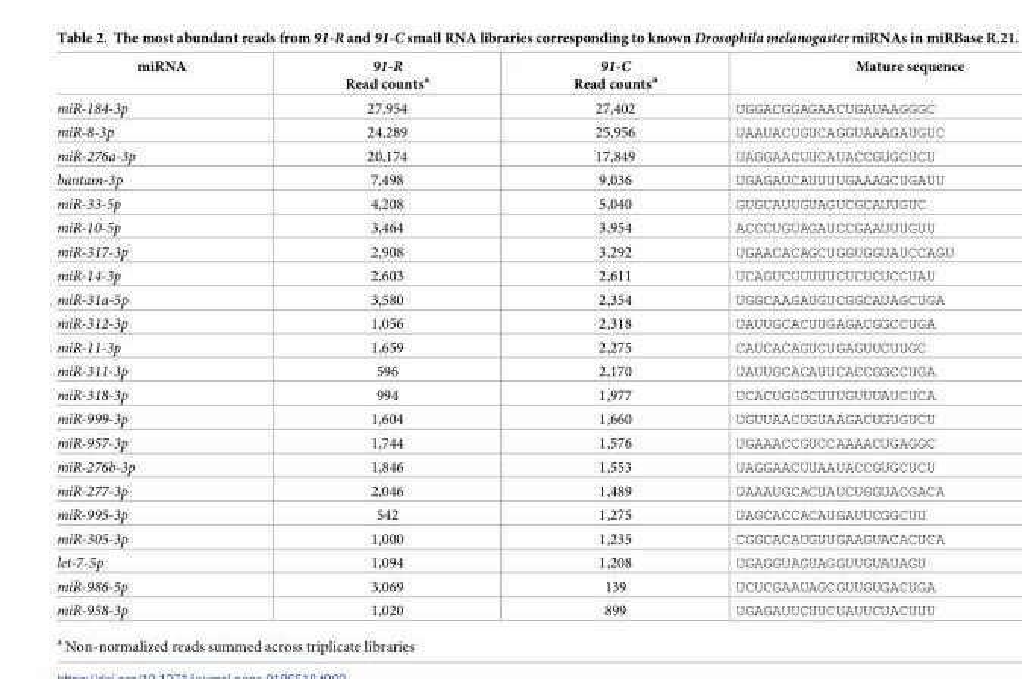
<table><thead><tr><td>miRNA</td><td>91-R Read counts<sup>a</sup></td><td>91-C Read counts<sup>a</sup></td><td>Mature sequence</td></tr></thead><tbody><tr><td>miR-184-3p</td><td>27,954</td><td>27,402</td><td>UGGACGGAGAACUGAUAAGGGC</td></tr><tr><td>miR-8-3p</td><td>24,289</td><td>25,956</td><td>UAAUACUGUCAGGUAAAGAUGUC</td></tr><tr><td>miR-276a-3p</td><td>20,174</td><td>17,849</td><td>UAGGAACUUCAUACCGUGCUCU</td></tr><tr><td>bantam-3p</td><td>7,498</td><td>9,036</td><td>UGAGAUCAUUUUGAAAGCUGAUU</td></tr><tr><td>miR-33-5p</td><td>4,208</td><td>5,040</td><td>GUGCAUUGUAGUCGCAUUGUC</td></tr><tr><td>miR-10-5p</td><td>3,464</td><td>3,954</td><td>ACCCUGUAGAUCCGAAUUUGUU</td></tr><tr><td>miR-317-3p</td><td>2,908</td><td>3,292</td><td>UGAACACAGCUGGUGGUAUCCAGU</td></tr><tr><td>miR-14-3p</td><td>2,603</td><td>2,611</td><td>UCAGUCUUUUUCUCUCUCCUAU</td></tr><tr><td>miR-31a-5p</td><td>3,580</td><td>2,354</td><td>UGGCAAGAUGUCGGCAUAGCUGA</td></tr><tr><td>miR-312-3p</td><td>1,056</td><td>2,318</td><td>UAUUGCACUUGAGACGGCCUGA</td></tr><tr><td>miR-11-3p</td><td>1,659</td><td>2,275</td><td>CAUCACAGUCUGAGUUCUUGC</td></tr><tr><td>miR-311-3p</td><td>596</td><td>2,170</td><td>UAUUGCACAUUCACCGGCCUGA</td></tr><tr><td>miR-318-3p</td><td>994</td><td>1,977</td><td>UCACUGGGCUUUGUUUAUCUCA</td></tr><tr><td>miR-999-3p</td><td>1,604</td><td>1,660</td><td>UGUUAACUGUAAGACUGUGUCU</td></tr><tr><td>miR-957-3p</td><td>1,744</td><td>1,576</td><td>UGAAACCGUCCAAAACUGAGGC</td></tr><tr><td>miR-276b-3p</td><td>1,846</td><td>1,553</td><td>UAGGAACUUAAUACCGUGCUCU</td></tr><tr><td>miR-277-3p</td><td>2,046</td><td>1,489</td><td>UAAAUGCACUAUCUGGUACGACA</td></tr><tr><td>miR-995-3p</td><td>542</td><td>1,275</td><td>UAGCACCACAUGAUUCGGCUU</td></tr><tr><td>miR-305-3p</td><td>1,000</td><td>1,235</td><td>CGGCACAUGUUGAAGUACACUCA</td></tr><tr><td>let-7-5p</td><td>1,094</td><td>1,208</td><td>UGAGGUAGUAGGUUGUAUAGU</td></tr><tr><td>miR-986-5p</td><td>3,069</td><td>139</td><td>UCUCGAAUAGCGUUGUGACUGA</td></tr><tr><td>miR-958-3p</td><td>1,020</td><td>899</td><td>UGAGAUUCUUCUAUUCUACUUU</td></tr></tbody></table>